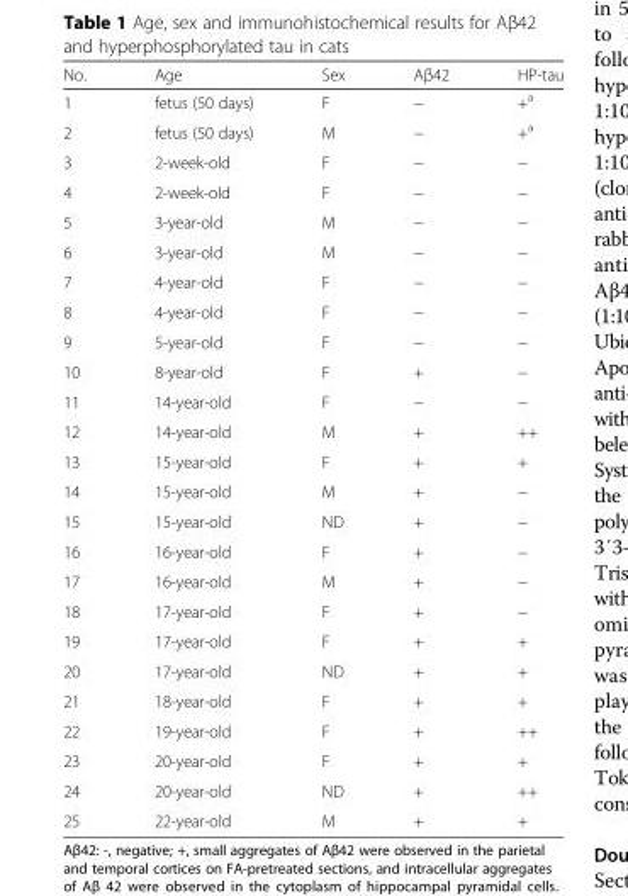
<table><thead><tr><td>No.</td><td>Age</td><td>Sex</td><td>Aβ42</td><td>HP-tau</td></tr></thead><tbody><tr><td>1</td><td>fetus (50 days)</td><td>F</td><td>−</td><td>+<sup>a</sup></td></tr><tr><td>2</td><td>fetus (50 days)</td><td>M</td><td>−</td><td>+<sup>a</sup></td></tr><tr><td>3</td><td>2-week-old</td><td>F</td><td>−</td><td>−</td></tr><tr><td>4</td><td>2-week-old</td><td>F</td><td>−</td><td>−</td></tr><tr><td>5</td><td>3-year-old</td><td>M</td><td>−</td><td>−</td></tr><tr><td>6</td><td>3-year-old</td><td>M</td><td>−</td><td>−</td></tr><tr><td>7</td><td>4-year-old</td><td>F</td><td>−</td><td>−</td></tr><tr><td>8</td><td>4-year-old</td><td>F</td><td>−</td><td>−</td></tr><tr><td>9</td><td>5-year-old</td><td>F</td><td>−</td><td>−</td></tr><tr><td>10</td><td>8-year-old</td><td>F</td><td>+</td><td>−</td></tr><tr><td>11</td><td>14-year-old</td><td>F</td><td>−</td><td>−</td></tr><tr><td>12</td><td>14-year-old</td><td>M</td><td>+</td><td>++</td></tr><tr><td>13</td><td>15-year-old</td><td>F</td><td>+</td><td>+</td></tr><tr><td>14</td><td>15-year-old</td><td>M</td><td>+</td><td>−</td></tr><tr><td>15</td><td>15-year-old</td><td>ND</td><td>+</td><td>−</td></tr><tr><td>16</td><td>16-year-old</td><td>F</td><td>+</td><td>−</td></tr><tr><td>17</td><td>16-year-old</td><td>M</td><td>+</td><td>−</td></tr><tr><td>18</td><td>17-year-old</td><td>F</td><td>+</td><td>−</td></tr><tr><td>19</td><td>17-year-old</td><td>F</td><td>+</td><td>+</td></tr><tr><td>20</td><td>17-year-old</td><td>ND</td><td>+</td><td>+</td></tr><tr><td>21</td><td>18-year-old</td><td>F</td><td>+</td><td>+</td></tr><tr><td>22</td><td>19-year-old</td><td>F</td><td>+</td><td>++</td></tr><tr><td>23</td><td>20-year-old</td><td>F</td><td>+</td><td>+</td></tr><tr><td>24</td><td>20-year-old</td><td>ND</td><td>+</td><td>++</td></tr><tr><td>25</td><td>22-year-old</td><td>M</td><td>+</td><td>+</td></tr></tbody></table>